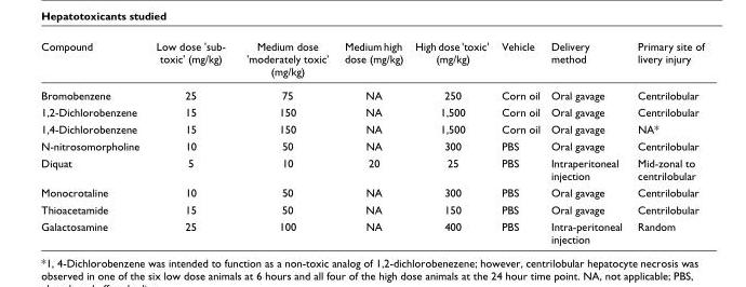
<table><thead><tr><td>Compound</td><td>Low dose &#x27;sub- toxic&#x27; (mg/kg)</td><td>Medium dose &#x27;moderately toxic&#x27; (mg/kg)</td><td>Medium high dose (mg/kg)</td><td>High dose &#x27;toxic&#x27; (mg/kg)</td><td>Vehicle</td><td>Delivery method</td><td>Primary site of livery injury</td></tr></thead><tbody><tr><td>Bromobenzene</td><td>25</td><td>75</td><td>NA</td><td>250</td><td>Corn oil</td><td>Oral gavage</td><td>Centrilobular</td></tr><tr><td>1,2-Dichlorobenzene</td><td>15</td><td>150</td><td>NA</td><td>1,500</td><td>Corn oil</td><td>Oral gavage</td><td>Centrilobular</td></tr><tr><td>1,4-Dichlorobenzene</td><td>15</td><td>150</td><td>NA</td><td>1,500</td><td>Corn oil</td><td>Oral gavage</td><td>NA*</td></tr><tr><td>N-nitrosomorpholine</td><td>10</td><td>50</td><td>NA</td><td>300</td><td>PBS</td><td>Oral gavage</td><td>Centrilobular</td></tr><tr><td>Diquat</td><td>5</td><td>10</td><td>20</td><td>25</td><td>PBS</td><td>Intraperitoneal injection</td><td>Mid-zonal to centrilobular</td></tr><tr><td>Monocrotaline</td><td>10</td><td>50</td><td>NA</td><td>300</td><td>PBS</td><td>Oral gavage</td><td>Centrilobular</td></tr><tr><td>Thioacetamide</td><td>15</td><td>50</td><td>NA</td><td>150</td><td>PBS</td><td>Oral gavage</td><td>Centrilobular</td></tr><tr><td>Galactosamine</td><td>25</td><td>100</td><td>NA</td><td>400</td><td>PBS</td><td>Intra-peritoneal injection</td><td>Random</td></tr></tbody></table>